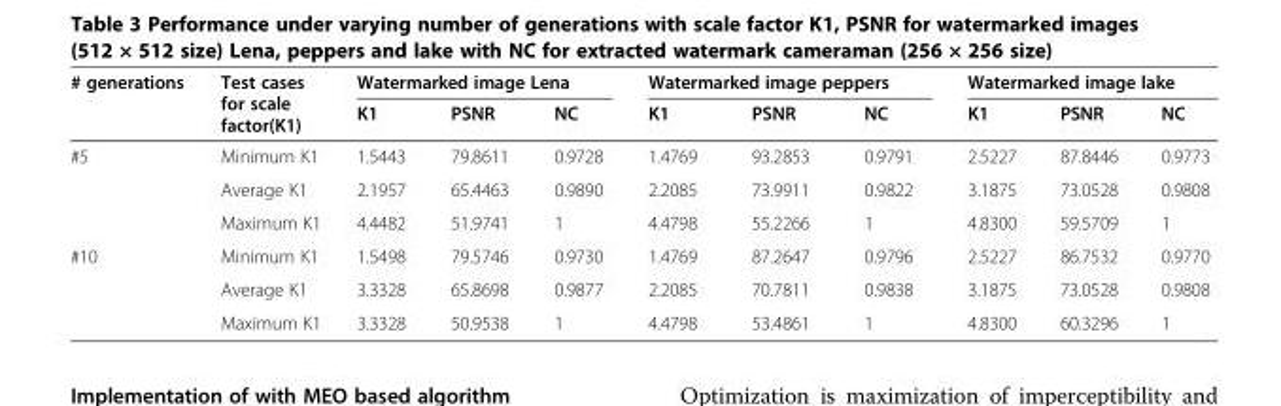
<table><thead><tr><td rowspan="2"># generations</td><td rowspan="2">Test cases for scale factor(K1)</td><td colspan="3">Watermarked image Lena</td><td colspan="3">Watermarked image peppers</td><td colspan="3">Watermarked image lake</td></tr><tr><td>K1</td><td>PSNR</td><td>NC</td><td>K1</td><td>PSNR</td><td>NC</td><td>K1</td><td>PSNR</td><td>NC</td></tr></thead><tbody><tr><td rowspan="3">#5</td><td>Minimum K1</td><td>1.5443</td><td>79.8611</td><td>0.9728</td><td>1.4769</td><td>93.2853</td><td>0.9791</td><td>2.5227</td><td>87.8446</td><td>0.9773</td></tr><tr><td>Average K1</td><td>2.1957</td><td>65.4463</td><td>0.9890</td><td>2.2085</td><td>73.9911</td><td>0.9822</td><td>3.1875</td><td>73.0528</td><td>0.9808</td></tr><tr><td>Maximum K1</td><td>4.4482</td><td>51.9741</td><td>1</td><td>4.4798</td><td>55.2266</td><td>1</td><td>4.8300</td><td>59.5709</td><td>1</td></tr><tr><td rowspan="3">#10</td><td>Minimum K1</td><td>1.5498</td><td>79.5746</td><td>0.9730</td><td>1.4769</td><td>87.2647</td><td>0.9796</td><td>2.5227</td><td>86.7532</td><td>0.9770</td></tr><tr><td>Average K1</td><td>3.3328</td><td>65.8698</td><td>0.9877</td><td>2.2085</td><td>70.7811</td><td>0.9838</td><td>3.1875</td><td>73.0528</td><td>0.9808</td></tr><tr><td>Maximum K1</td><td>3.3328</td><td>50.9538</td><td>1</td><td>4.4798</td><td>53.4861</td><td>1</td><td>4.8300</td><td>60.3296</td><td>1</td></tr></tbody></table>